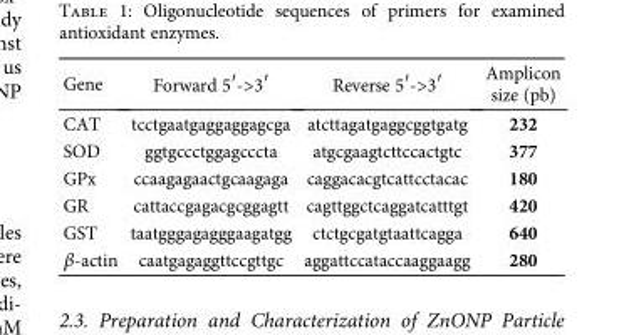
<table><thead><tr><td>Gene</td><td>Forward 5′-&gt;3′</td><td>Reverse 5′-&gt;3′</td><td>Amplicon size (pb)</td></tr></thead><tbody><tr><td>CAT</td><td>tcctgaatgaggaggagcga</td><td>atcttagatgaggcggtgatg</td><td>232</td></tr><tr><td>SOD</td><td>ggtgccctggagcccta</td><td>atgcgaagtcttccactgtc</td><td>377</td></tr><tr><td>GPx</td><td>ccaagagaactgcaagaga</td><td>caggacacgtcattcctacac</td><td>180</td></tr><tr><td>GR</td><td>cattaccgagacgcggagtt</td><td>cagttggctcaggatcatttgt</td><td>420</td></tr><tr><td>GST</td><td>taatgggagagggaagatgg</td><td>ctctgcgatgtaattcagga</td><td>640</td></tr><tr><td>β-actin</td><td>caatgagaggttccgttgc</td><td>aggattccataccaaggaagg</td><td>280</td></tr></tbody></table>